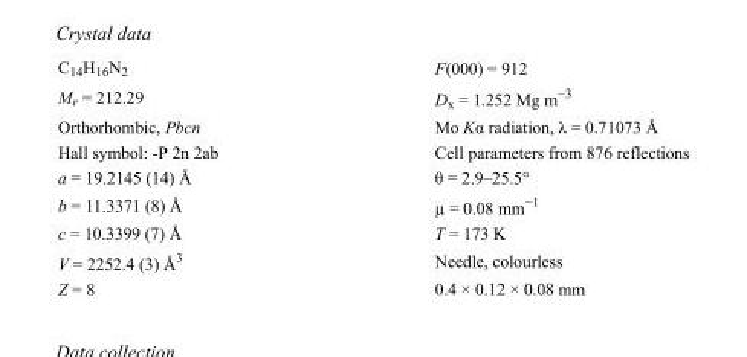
<table><tbody><tr><td>C<sub>14</sub>H<sub>16</sub>N<sub>2</sub></td><td>F(000) = 912</td></tr><tr><td>M<sub>r</sub> = 212.29</td><td>D<sub>x</sub> = 1.252 Mg m<sup>−3</sup></td></tr><tr><td>Orthorhombic, Pbcn</td><td>Mo Kα radiation, λ = 0.71073 Å</td></tr><tr><td>Hall symbol: -P 2n 2ab</td><td>Cell parameters from 876 reflections</td></tr><tr><td>a = 19.2145 (14) Å</td><td>θ = 2.9–25.5°</td></tr><tr><td>b = 11.3371 (8) Å</td><td>µ = 0.08 mm<sup>−1</sup></td></tr><tr><td>c = 10.3399 (7) Å</td><td>T = 173 K</td></tr><tr><td>V = 2252.4 (3) Å<sup>3</sup></td><td>Needle, colourless</td></tr><tr><td>Z = 8</td><td>0.4 × 0.12 × 0.08 mm</td></tr></tbody></table>